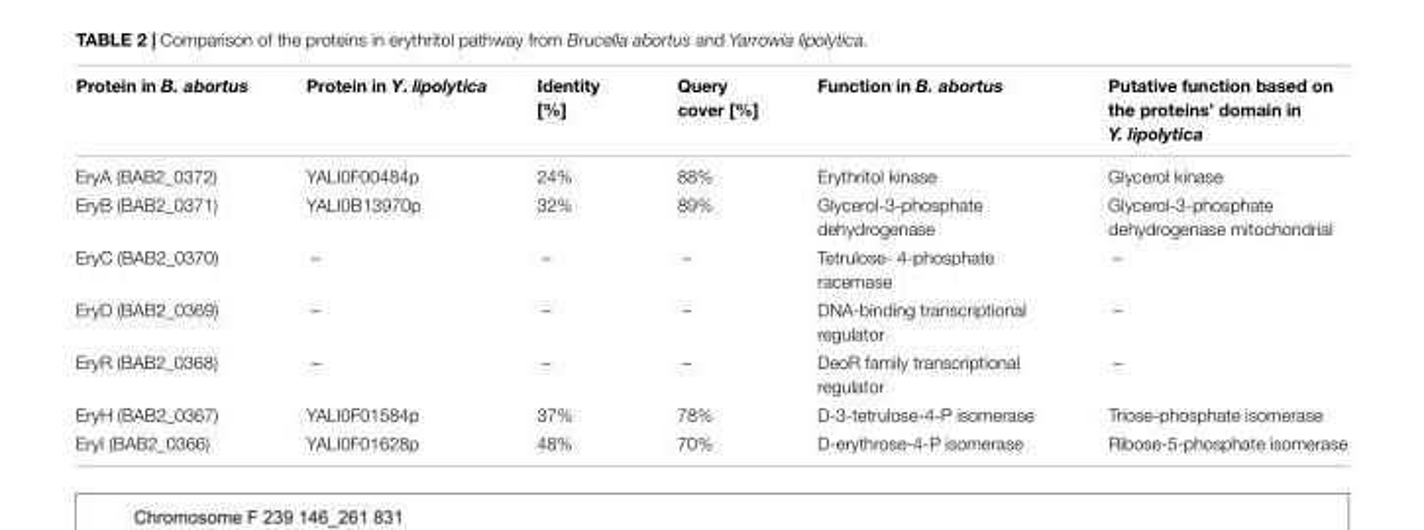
<table><thead><tr><td>Protein in B. abortus</td><td>Protein in Y. lipolytica</td><td>Identity [%]</td><td>Query cover [%]</td><td>Function in B. abortus</td><td>Putative function based on the proteins’ domain in Y. lipolytica</td></tr></thead><tbody><tr><td>EryA (BAB2_0372)</td><td>YALI0F00484p</td><td>24%</td><td>88%</td><td>Erythritol kinase</td><td>Glycerol kinase</td></tr><tr><td>EryB (BAB2_0371)</td><td>YALI0B13970p</td><td>32%</td><td>89%</td><td>Glycerol-3-phosphate dehydrogenase</td><td>Glycerol-3-phosphate dehydrogenase mitochondrial</td></tr><tr><td>EryC (BAB2_0370)</td><td>–</td><td>–</td><td>–</td><td>Tetrulose- 4-phosphate racemase</td><td>–</td></tr><tr><td>EryD (BAB2_0369)</td><td>–</td><td>–</td><td>–</td><td>DNA-binding transcriptional regulator</td><td>–</td></tr><tr><td>EryR (BAB2_0368)</td><td>–</td><td>–</td><td>–</td><td>DeoR family transcriptional regulator</td><td>–</td></tr><tr><td>EryH (BAB2_0367)</td><td>YALI0F01584p</td><td>37%</td><td>78%</td><td>D-3-tetrulose-4-P isomerase</td><td>Triose-phosphate isomerase</td></tr><tr><td>EryI (BAB2_0366)</td><td>YALI0F01628p</td><td>48%</td><td>70%</td><td>D-erythrose-4-P isomerase</td><td>Ribose-5-phosphate isomerase</td></tr></tbody></table>